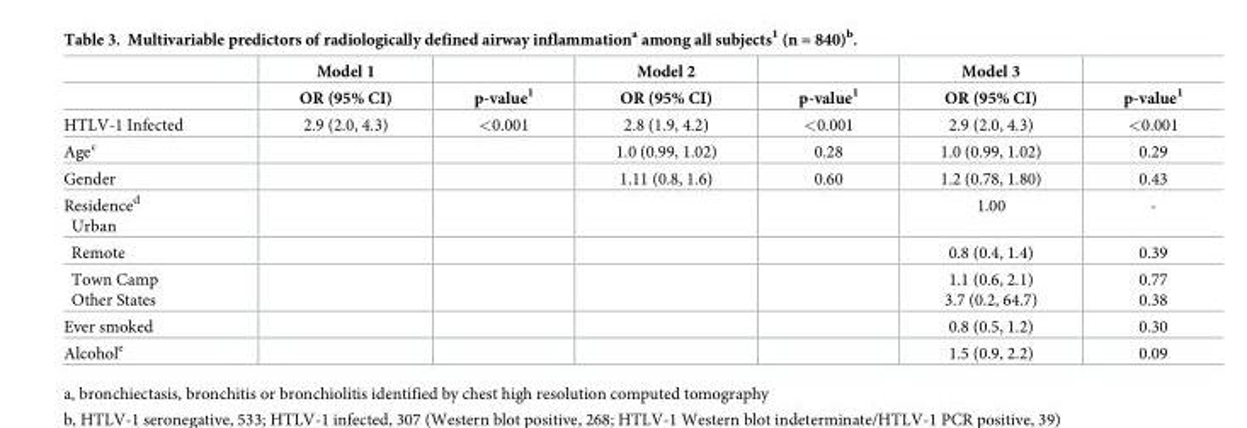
<table><thead><tr><td rowspan="2"></td><td rowspan="2">Model 1 OR (95% CI)</td><td rowspan="2">p-value<sup>1</sup></td><td rowspan="2">Model 2 OR (95% CI)</td><td rowspan="2">p-value<sup>1</sup></td><td rowspan="2">Model 3 OR (95% CI)</td><td rowspan="2">p-value<sup>1</sup></td></tr><tr></tr></thead><tbody><tr><td>HTLV-1 Infected</td><td>2.9 (2.0, 4.3)</td><td>&lt;0.001</td><td>2.8 (1.9, 4.2)</td><td>&lt;0.001</td><td>2.9 (2.0, 4.3)</td><td>&lt;0.001</td></tr><tr><td>Age<sup>c</sup></td><td></td><td></td><td>1.0 (0.99, 1.02)</td><td>0.28</td><td>1.0 (0.99, 1.02)</td><td>0.29</td></tr><tr><td>Gender</td><td></td><td></td><td>1.11 (0.8, 1.6)</td><td>0.60</td><td>1.2 (0.78, 1.80)</td><td>0.43</td></tr><tr><td>Residence<sup>d</sup> Urban</td><td></td><td></td><td></td><td></td><td>1.00</td><td>-</td></tr><tr><td>Remote</td><td></td><td></td><td></td><td></td><td>0.8 (0.4, 1.4)</td><td>0.39</td></tr><tr><td>Town Camp Other States</td><td></td><td></td><td></td><td></td><td>1.1 (0.6, 2.1) 3.7 (0.2, 64.7)</td><td>0.77 0.38</td></tr><tr><td>Ever smoked</td><td></td><td></td><td></td><td></td><td>0.8 (0.5, 1.2)</td><td>0.30</td></tr><tr><td>Alcohol<sup>e</sup></td><td></td><td></td><td></td><td></td><td>1.5 (0.9, 2.2)</td><td>0.09</td></tr></tbody></table>